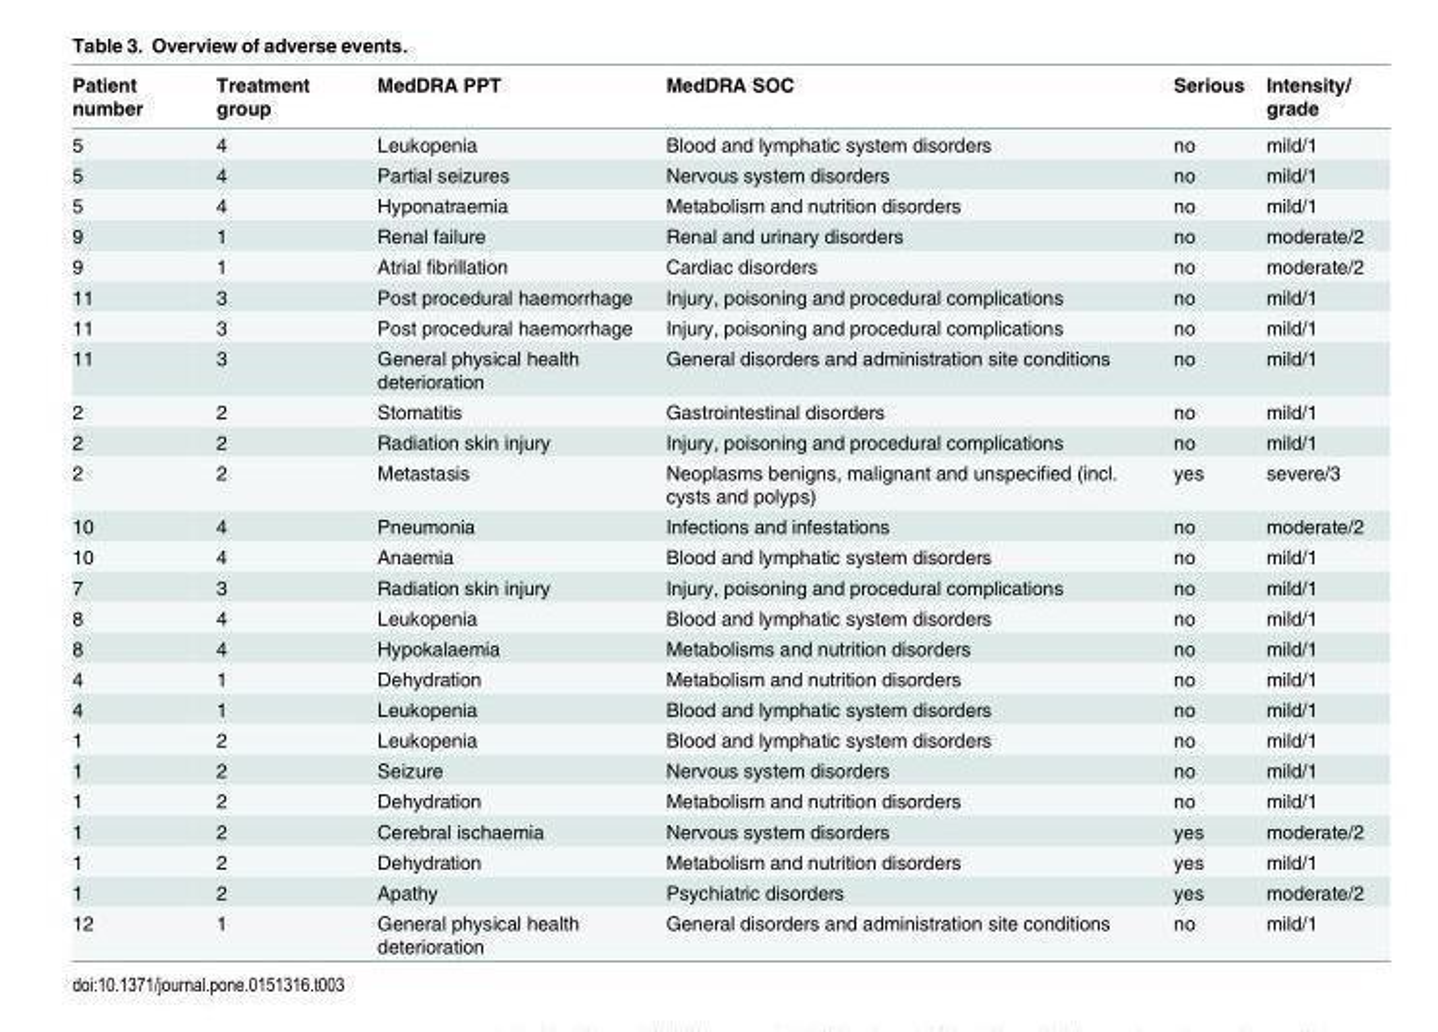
<table><thead><tr><td>Patient number</td><td>Treatment group</td><td>MedDRA PPT</td><td>MedDRA SOC</td><td>Serious</td><td>Intensity/ grade</td></tr></thead><tbody><tr><td>5</td><td>4</td><td>Leukopenia</td><td>Blood and lymphatic system disorders</td><td>no</td><td>mild/1</td></tr><tr><td>5</td><td>4</td><td>Partial seizures</td><td>Nervous system disorders</td><td>no</td><td>mild/1</td></tr><tr><td>5</td><td>4</td><td>Hyponatraemia</td><td>Metabolism and nutrition disorders</td><td>no</td><td>mild/1</td></tr><tr><td>9</td><td>1</td><td>Renal failure</td><td>Renal and urinary disorders</td><td>no</td><td>moderate/2</td></tr><tr><td>9</td><td>1</td><td>Atrial fibrillation</td><td>Cardiac disorders</td><td>no</td><td>moderate/2</td></tr><tr><td>11</td><td>3</td><td>Post procedural haemorrhage</td><td>Injury, poisoning and procedural complications</td><td>no</td><td>mild/1</td></tr><tr><td>11</td><td>3</td><td>Post procedural haemorrhage</td><td>Injury, poisoning and procedural complications</td><td>no</td><td>mild/1</td></tr><tr><td>11</td><td>3</td><td>General physical health deterioration</td><td>General disorders and administration site conditions</td><td>no</td><td>mild/1</td></tr><tr><td>2</td><td>2</td><td>Stomatitis</td><td>Gastrointestinal disorders</td><td>no</td><td>mild/1</td></tr><tr><td>2</td><td>2</td><td>Radiation skin injury</td><td>Injury, poisoning and procedural complications</td><td>no</td><td>mild/1</td></tr><tr><td>2</td><td>2</td><td>Metastasis</td><td>Neoplasms benigns, malignant and unspecified (incl. cysts and polyps)</td><td>yes</td><td>severe/3</td></tr><tr><td>10</td><td>4</td><td>Pneumonia</td><td>Infections and infestations</td><td>no</td><td>moderate/2</td></tr><tr><td>10</td><td>4</td><td>Anaemia</td><td>Blood and lymphatic system disorders</td><td>no</td><td>mild/1</td></tr><tr><td>7</td><td>3</td><td>Radiation skin injury</td><td>Injury, poisoning and procedural complications</td><td>no</td><td>mild/1</td></tr><tr><td>8</td><td>4</td><td>Leukopenia</td><td>Blood and lymphatic system disorders</td><td>no</td><td>mild/1</td></tr><tr><td>8</td><td>4</td><td>Hypokalaemia</td><td>Metabolisms and nutrition disorders</td><td>no</td><td>mild/1</td></tr><tr><td>4</td><td>1</td><td>Dehydration</td><td>Metabolism and nutrition disorders</td><td>no</td><td>mild/1</td></tr><tr><td>4</td><td>1</td><td>Leukopenia</td><td>Blood and lymphatic system disorders</td><td>no</td><td>mild/1</td></tr><tr><td>1</td><td>2</td><td>Leukopenia</td><td>Blood and lymphatic system disorders</td><td>no</td><td>mild/1</td></tr><tr><td>1</td><td>2</td><td>Seizure</td><td>Nervous system disorders</td><td>no</td><td>mild/1</td></tr><tr><td>1</td><td>2</td><td>Dehydration</td><td>Metabolism and nutrition disorders</td><td>no</td><td>mild/1</td></tr><tr><td>1</td><td>2</td><td>Cerebral ischaemia</td><td>Nervous system disorders</td><td>yes</td><td>moderate/2</td></tr><tr><td>1</td><td>2</td><td>Dehydration</td><td>Metabolism and nutrition disorders</td><td>yes</td><td>mild/1</td></tr><tr><td>1</td><td>2</td><td>Apathy</td><td>Psychiatric disorders</td><td>yes</td><td>moderate/2</td></tr><tr><td>12</td><td>1</td><td>General physical health deterioration</td><td>General disorders and administration site conditions</td><td>no</td><td>mild/1</td></tr></tbody></table>